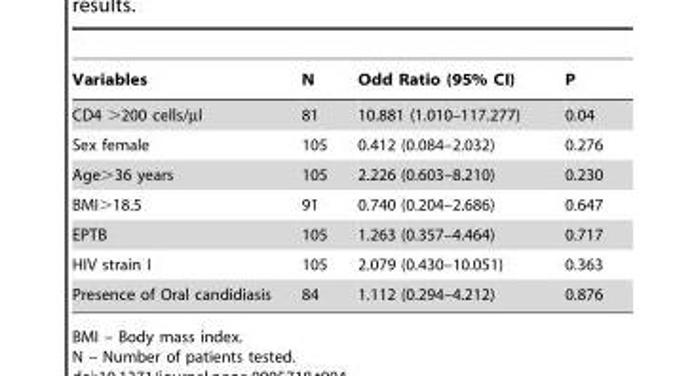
<table><thead><tr><td>Variables</td><td>N</td><td>Odd Ratio (95% CI)</td><td>P</td></tr></thead><tbody><tr><td>CD4 &gt;200 cells/µl</td><td>81</td><td>10.881 (1.010–117.277)</td><td>0.04</td></tr><tr><td>Sex female</td><td>105</td><td>0.412 (0.084–2.032)</td><td>0.276</td></tr><tr><td>Age&gt;36 years</td><td>105</td><td>2.226 (0.603–8.210)</td><td>0.230</td></tr><tr><td>BMI&gt;18.5</td><td>91</td><td>0.740 (0.204–2.686)</td><td>0.647</td></tr><tr><td>EPTB</td><td>105</td><td>1.263 (0.357–4.464)</td><td>0.717</td></tr><tr><td>HIV strain I</td><td>105</td><td>2.079 (0.430–10.051)</td><td>0.363</td></tr><tr><td>Presence of Oral candidiasis</td><td>84</td><td>1.112 (0.294–4.212)</td><td>0.876</td></tr></tbody></table>